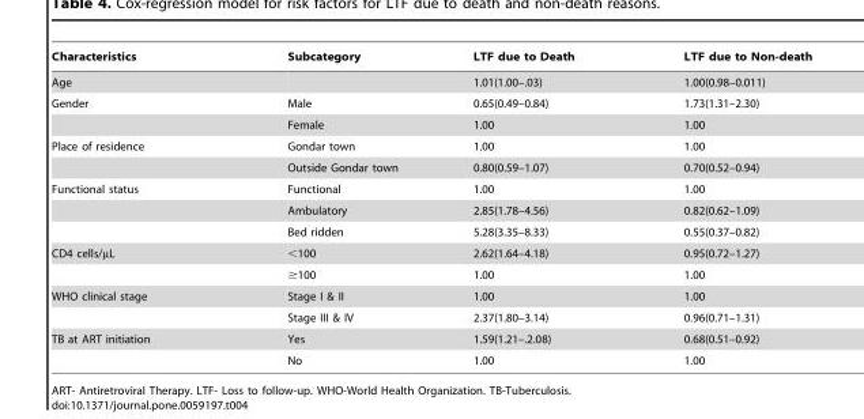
<table><thead><tr><td>Characteristics</td><td>Subcategory</td><td>LTF due to Death</td><td>LTF due to Non-death</td></tr></thead><tbody><tr><td>Age</td><td></td><td>1.01(1.00–.03)</td><td>1.00(0.98–0.011)</td></tr><tr><td rowspan="2">Gender</td><td>Male</td><td>0.65(0.49–0.84)</td><td>1.73(1.31–2.30)</td></tr><tr><td>Female</td><td>1.00</td><td>1.00</td></tr><tr><td rowspan="2">Place of residence</td><td>Gondar town</td><td>1.00</td><td>1.00</td></tr><tr><td>Outside Gondar town</td><td>0.80(0.59–1.07)</td><td>0.70(0.52–0.94)</td></tr><tr><td rowspan="3">Functional status</td><td>Functional</td><td>1.00</td><td>1.00</td></tr><tr><td>Ambulatory</td><td>2.85(1.78–4.56)</td><td>0.82(0.62–1.09)</td></tr><tr><td>Bed ridden</td><td>5.28(3.35–8.33)</td><td>0.55(0.37–0.82)</td></tr><tr><td rowspan="2">CD4 cells/µL</td><td>&lt;100</td><td>2.62(1.64–4.18)</td><td>0.95(0.72–1.27)</td></tr><tr><td>≥100</td><td>1.00</td><td>1.00</td></tr><tr><td rowspan="2">WHO clinical stage</td><td>Stage I &amp; II</td><td>1.00</td><td>1.00</td></tr><tr><td>Stage III &amp; IV</td><td>2.37(1.80–3.14)</td><td>0.96(0.71–1.31)</td></tr><tr><td rowspan="2">TB at ART initiation</td><td>Yes</td><td>1.59(1.21–.2.08)</td><td>0.68(0.51–0.92)</td></tr><tr><td>No</td><td>1.00</td><td>1.00</td></tr></tbody></table>